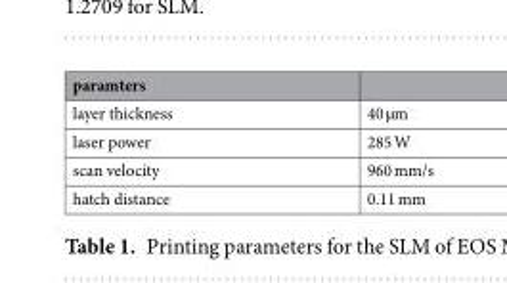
<table><thead><tr><td>paramters</td><td></td></tr></thead><tbody><tr><td>layer thickness</td><td>40 µm</td></tr><tr><td>laser power</td><td>285 W</td></tr><tr><td>scan velocity</td><td>960 mm/s</td></tr><tr><td>hatch distance</td><td>0.11 mm</td></tr></tbody></table>